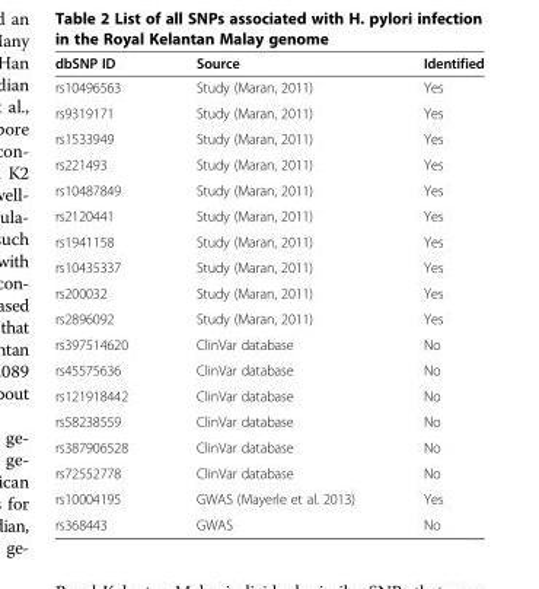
<table><thead><tr><td>dbSNP ID</td><td>Source</td><td>Identified</td></tr></thead><tbody><tr><td>rs10496563</td><td>Study (Maran, 2011)</td><td>Yes</td></tr><tr><td>rs9319171</td><td>Study (Maran, 2011)</td><td>Yes</td></tr><tr><td>rs1533949</td><td>Study (Maran, 2011)</td><td>Yes</td></tr><tr><td>rs221493</td><td>Study (Maran, 2011)</td><td>Yes</td></tr><tr><td>rs10487849</td><td>Study (Maran, 2011)</td><td>Yes</td></tr><tr><td>rs2120441</td><td>Study (Maran, 2011)</td><td>Yes</td></tr><tr><td>rs1941158</td><td>Study (Maran, 2011)</td><td>Yes</td></tr><tr><td>rs10435337</td><td>Study (Maran, 2011)</td><td>Yes</td></tr><tr><td>rs200032</td><td>Study (Maran, 2011)</td><td>Yes</td></tr><tr><td>rs2896092</td><td>Study (Maran, 2011)</td><td>Yes</td></tr><tr><td>rs397514620</td><td>ClinVar database</td><td>No</td></tr><tr><td>rs45575636</td><td>ClinVar database</td><td>No</td></tr><tr><td>rs121918442</td><td>ClinVar database</td><td>No</td></tr><tr><td>rs58238559</td><td>ClinVar database</td><td>No</td></tr><tr><td>rs387906528</td><td>ClinVar database</td><td>No</td></tr><tr><td>rs72552778</td><td>ClinVar database</td><td>No</td></tr><tr><td>rs10004195</td><td>GWAS (Mayerle et al. 2013)</td><td>Yes</td></tr><tr><td>rs368443</td><td>GWAS</td><td>No</td></tr></tbody></table>